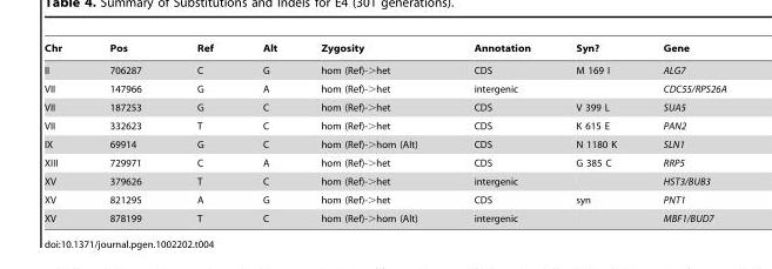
<table><thead><tr><td>Chr</td><td>Pos</td><td>Ref</td><td>Alt</td><td>Zygosity</td><td>Annotation</td><td>Syn?</td><td>Gene</td></tr></thead><tbody><tr><td>II</td><td>706287</td><td>C</td><td>G</td><td>hom (Ref)-&gt;het</td><td>CDS</td><td>M 169 I</td><td>ALG7</td></tr><tr><td>VII</td><td>147966</td><td>G</td><td>A</td><td>hom (Ref)-&gt;het</td><td>intergenic</td><td></td><td>CDC55/RPS26A</td></tr><tr><td>VII</td><td>187253</td><td>G</td><td>C</td><td>hom (Ref)-&gt;het</td><td>CDS</td><td>V 399 L</td><td>SUA5</td></tr><tr><td>VII</td><td>332623</td><td>T</td><td>C</td><td>hom (Ref)-&gt;het</td><td>CDS</td><td>K 615 E</td><td>PAN2</td></tr><tr><td>IX</td><td>69914</td><td>G</td><td>C</td><td>hom (Ref)-&gt;hom (Alt)</td><td>CDS</td><td>N 1180 K</td><td>SLN1</td></tr><tr><td>XIII</td><td>729971</td><td>C</td><td>A</td><td>hom (Ref)-&gt;het</td><td>CDS</td><td>G 385 C</td><td>RRP5</td></tr><tr><td>XV</td><td>379626</td><td>T</td><td>C</td><td>hom (Ref)-&gt;het</td><td>intergenic</td><td></td><td>HST3/BUB3</td></tr><tr><td>XV</td><td>821295</td><td>A</td><td>G</td><td>hom (Ref)-&gt;het</td><td>CDS</td><td>syn</td><td>PNT1</td></tr><tr><td>XV</td><td>878199</td><td>T</td><td>C</td><td>hom (Ref)-&gt;hom (Alt)</td><td>intergenic</td><td></td><td>MBF1/BUD7</td></tr></tbody></table>